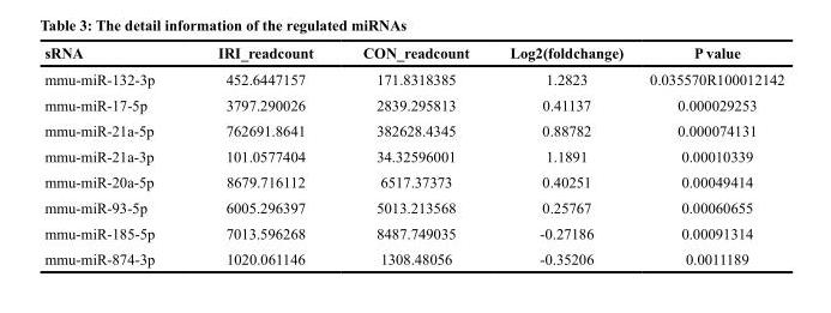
<table><thead><tr><td>sRNA</td><td>IRI_readcount</td><td>CON_readcount</td><td>Log2(foldchange)</td><td>P value</td></tr></thead><tbody><tr><td>mmu-miR-132-3p</td><td>452.6447157</td><td>171.8318385</td><td>1.2823</td><td>0.035570R100012142</td></tr><tr><td>mmu-miR-17-5p</td><td>3797.290026</td><td>2839.295813</td><td>0.41137</td><td>0.000029253</td></tr><tr><td>mmu-miR-21a-5p</td><td>762691.8641</td><td>382628.4345</td><td>0.88782</td><td>0.000074131</td></tr><tr><td>mmu-miR-21a-3p</td><td>101.0577404</td><td>34.32596001</td><td>1.1891</td><td>0.00010339</td></tr><tr><td>mmu-miR-20a-5p</td><td>8679.716112</td><td>6517.37373</td><td>0.40251</td><td>0.00049414</td></tr><tr><td>mmu-miR-93-5p</td><td>6005.296397</td><td>5013.213568</td><td>0.25767</td><td>0.00060655</td></tr><tr><td>mmu-miR-185-5p</td><td>7013.596268</td><td>8487.749035</td><td>-0.27186</td><td>0.00091314</td></tr><tr><td>mmu-miR-874-3p</td><td>1020.061146</td><td>1308.48056</td><td>-0.35206</td><td>0.0011189</td></tr></tbody></table>